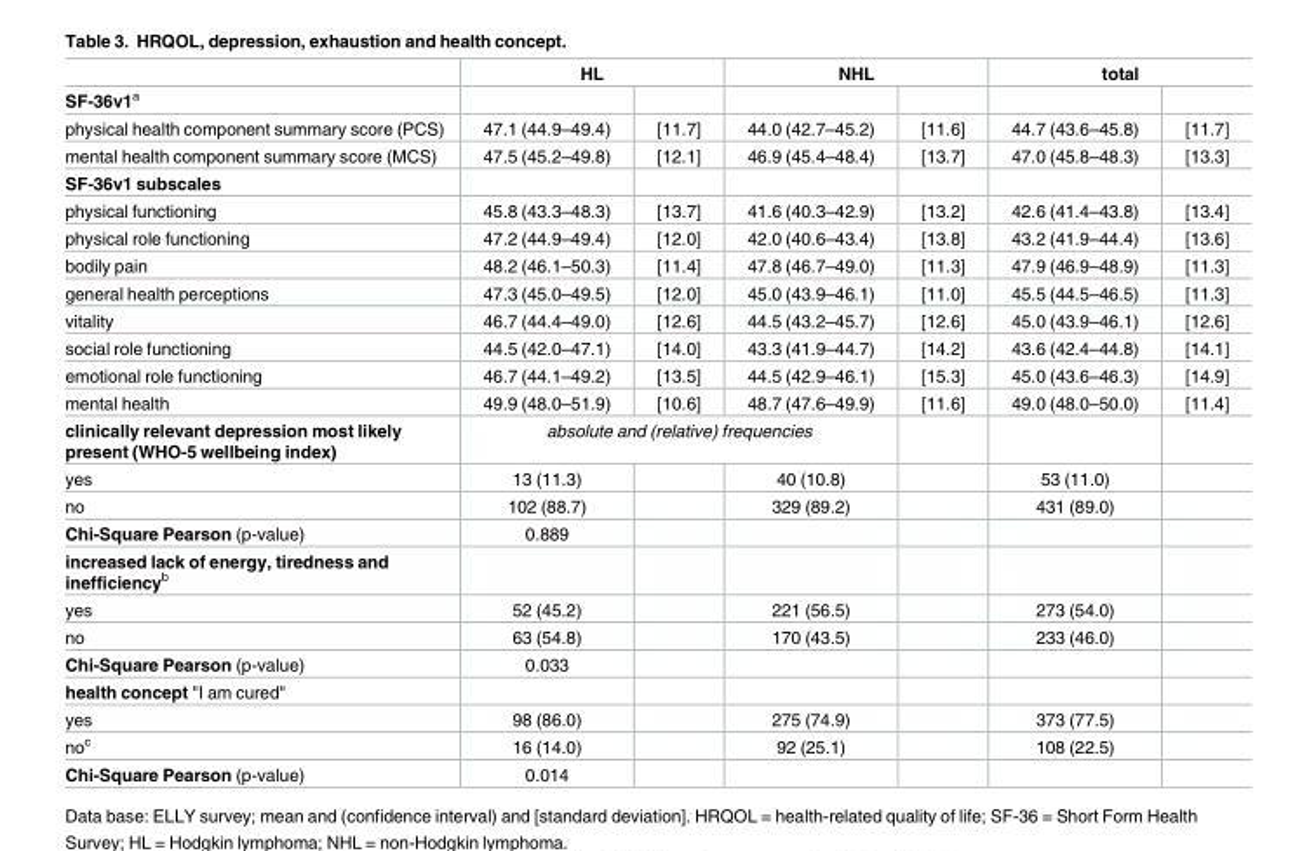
<table><thead><tr><td rowspan="2">SF-36v1<sup>a</sup></td><td colspan="2">HL</td><td colspan="2">NHL</td><td colspan="2">total</td></tr><tr><td></td><td></td><td></td><td></td><td></td><td></td></tr></thead><tbody><tr><td>physical health component summary score (PCS)</td><td>47.1 (44.9–49.4)</td><td>[11.7]</td><td>44.0 (42.7–45.2)</td><td>[11.6]</td><td>44.7 (43.6–45.8)</td><td>[11.7]</td></tr><tr><td>mental health component summary score (MCS)</td><td>47.5 (45.2–49.8)</td><td>[12.1]</td><td>46.9 (45.4–48.4)</td><td>[13.7]</td><td>47.0 (45.8–48.3)</td><td>[13.3]</td></tr><tr><td colspan="7">SF-36v1 subscales</td></tr><tr><td>physical functioning</td><td>45.8 (43.3–48.3)</td><td>[13.7]</td><td>41.6 (40.3–42.9)</td><td>[13.2]</td><td>42.6 (41.4–43.8)</td><td>[13.4]</td></tr><tr><td>physical role functioning</td><td>47.2 (44.9–49.4)</td><td>[12.0]</td><td>42.0 (40.6–43.4)</td><td>[13.8]</td><td>43.2 (41.9–44.4)</td><td>[13.6]</td></tr><tr><td>bodily pain</td><td>48.2 (46.1–50.3)</td><td>[11.4]</td><td>47.8 (46.7–49.0)</td><td>[11.3]</td><td>47.9 (46.9–48.9)</td><td>[11.3]</td></tr><tr><td>general health perceptions</td><td>47.3 (45.0–49.5)</td><td>[12.0]</td><td>45.0 (43.9–46.1)</td><td>[11.0]</td><td>45.5 (44.5–46.5)</td><td>[11.3]</td></tr><tr><td>vitality</td><td>46.7 (44.4–49.0)</td><td>[12.6]</td><td>44.5 (43.2–45.7)</td><td>[12.6]</td><td>45.0 (43.9–46.1)</td><td>[12.6]</td></tr><tr><td>social role functioning</td><td>44.5 (42.0–47.1)</td><td>[14.0]</td><td>43.3 (41.9–44.7)</td><td>[14.2]</td><td>43.6 (42.4–44.8)</td><td>[14.1]</td></tr><tr><td>emotional role functioning</td><td>46.7 (44.1–49.2)</td><td>[13.5]</td><td>44.5 (42.9–46.1)</td><td>[15.3]</td><td>45.0 (43.6–46.3)</td><td>[14.9]</td></tr><tr><td>mental health</td><td>49.9 (48.0–51.9)</td><td>[10.6]</td><td>48.7 (47.6–49.9)</td><td>[11.6]</td><td>49.0 (48.0–50.0)</td><td>[11.4]</td></tr><tr><td>clinically relevant depression most likely present (WHO-5 wellbeing index)</td><td colspan="3">absolute and (relative) frequencies</td><td></td><td></td><td></td></tr><tr><td>yes</td><td>13 (11.3)</td><td></td><td>40 (10.8)</td><td></td><td>53 (11.0)</td><td></td></tr><tr><td>no</td><td>102 (88.7)</td><td></td><td>329 (89.2)</td><td></td><td>431 (89.0)</td><td></td></tr><tr><td>Chi-Square Pearson (p-value)</td><td>0.889</td><td></td><td></td><td></td><td></td><td></td></tr><tr><td colspan="7">increased lack of energy, tiredness and inefficiency<sup>b</sup></td></tr><tr><td>yes</td><td>52 (45.2)</td><td></td><td>221 (56.5)</td><td></td><td>273 (54.0)</td><td></td></tr><tr><td>no</td><td>63 (54.8)</td><td></td><td>170 (43.5)</td><td></td><td>233 (46.0)</td><td></td></tr><tr><td>Chi-Square Pearson (p-value)</td><td>0.033</td><td></td><td></td><td></td><td></td><td></td></tr><tr><td colspan="7">health concept &quot;I am cured&quot;</td></tr><tr><td>yes</td><td>98 (86.0)</td><td></td><td>275 (74.9)</td><td></td><td>373 (77.5)</td><td></td></tr><tr><td>no<sup>c</sup></td><td>16 (14.0)</td><td></td><td>92 (25.1)</td><td></td><td>108 (22.5)</td><td></td></tr><tr><td>Chi-Square Pearson (p-value)</td><td>0.014</td><td></td><td></td><td></td><td></td><td></td></tr></tbody></table>